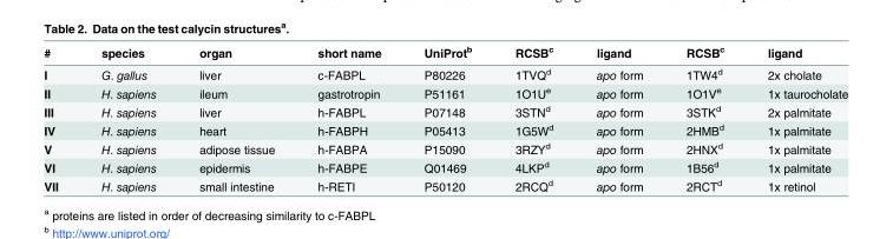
<table><thead><tr><td>#</td><td>species</td><td>organ</td><td>short name</td><td>UniProt<sup>b</sup></td><td>RCSB<sup>c</sup></td><td>ligand</td><td>RCSB<sup>c</sup></td><td>ligand</td></tr></thead><tbody><tr><td>I</td><td>G. gallus</td><td>liver</td><td>c-FABPL</td><td>P80226</td><td>1TVQ<sup>d</sup></td><td>apo form</td><td>1TW4<sup>d</sup></td><td>2x cholate</td></tr><tr><td>II</td><td>H. sapiens</td><td>ileum</td><td>gastrotropin</td><td>P51161</td><td>1O1U<sup>e</sup></td><td>apo form</td><td>1O1V<sup>e</sup></td><td>1x taurocholate</td></tr><tr><td>III</td><td>H. sapiens</td><td>liver</td><td>h-FABPL</td><td>P07148</td><td>3STN<sup>d</sup></td><td>apo form</td><td>3STK<sup>d</sup></td><td>2x palmitate</td></tr><tr><td>IV</td><td>H. sapiens</td><td>heart</td><td>h-FABPH</td><td>P05413</td><td>1G5W<sup>d</sup></td><td>apo form</td><td>2HMB<sup>d</sup></td><td>1x palmitate</td></tr><tr><td>V</td><td>H. sapiens</td><td>adipose tissue</td><td>h-FABPA</td><td>P15090</td><td>3RZY<sup>d</sup></td><td>apo form</td><td>2HNX<sup>d</sup></td><td>1x palmitate</td></tr><tr><td>VI</td><td>H. sapiens</td><td>epidermis</td><td>h-FABPE</td><td>Q01469</td><td>4LKP<sup>d</sup></td><td>apo form</td><td>1B56<sup>d</sup></td><td>1x palmitate</td></tr><tr><td>VII</td><td>H. sapiens</td><td>small intestine</td><td>h-RETI</td><td>P50120</td><td>2RCQ<sup>d</sup></td><td>apo form</td><td>2RCT<sup>d</sup></td><td>1x retinol</td></tr></tbody></table>